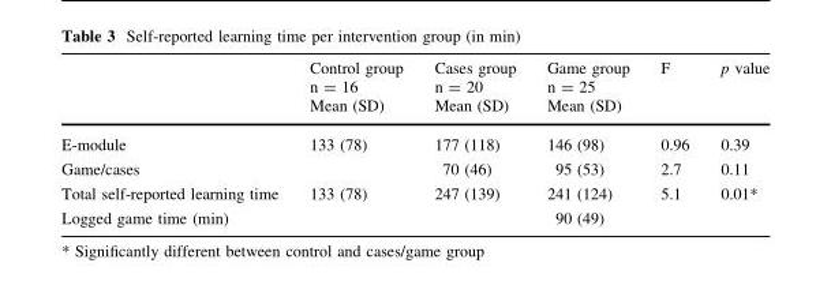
<table><thead><tr><td rowspan="2"></td><td rowspan="2">Control group n = 16 Mean (SD)</td><td rowspan="2">Cases group n = 20 Mean (SD)</td><td rowspan="2">Game group n = 25 Mean (SD)</td><td rowspan="2">F</td><td rowspan="2">p value</td></tr><tr></tr></thead><tbody><tr><td>E-module</td><td>133 (78)</td><td>177 (118)</td><td>146 (98)</td><td>0.96</td><td>0.39</td></tr><tr><td>Game/cases</td><td></td><td>70 (46)</td><td>95 (53)</td><td>2.7</td><td>0.11</td></tr><tr><td>Total self-reported learning time</td><td>133 (78)</td><td>247 (139)</td><td>241 (124)</td><td>5.1</td><td>0.01*</td></tr><tr><td>Logged game time (min)</td><td></td><td></td><td>90 (49)</td><td></td><td></td></tr></tbody></table>